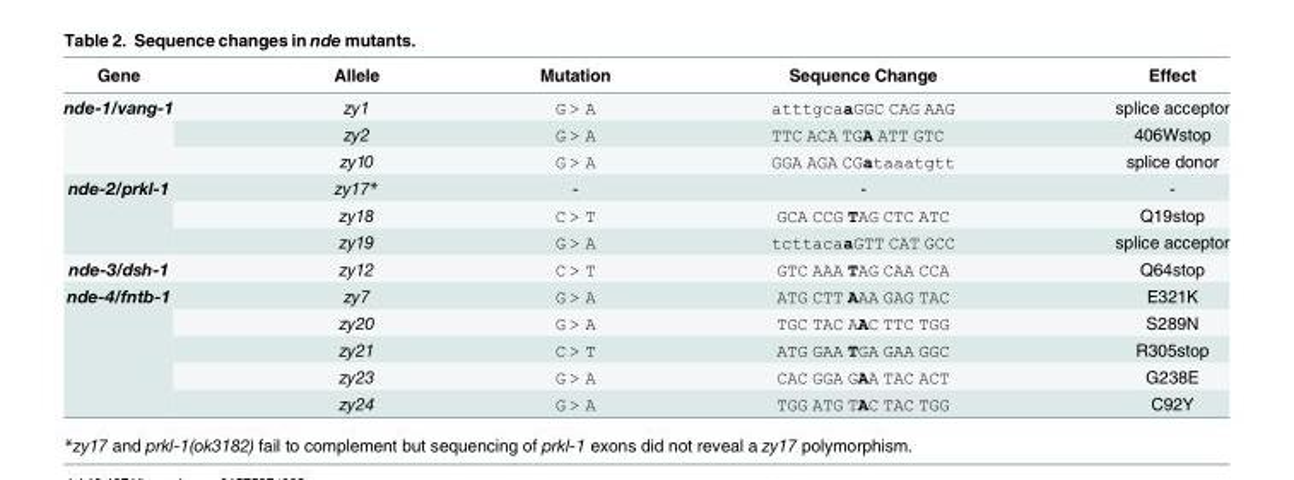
<table><thead><tr><td>Gene</td><td>Allele</td><td>Mutation</td><td>Sequence Change</td><td>Effect</td></tr></thead><tbody><tr><td rowspan="3">nde-1/vang-1</td><td>zy1</td><td>G &gt; A</td><td>atttgcaaGGC CAG AAG</td><td>splice acceptor</td></tr><tr><td>zy2</td><td>G &gt; A</td><td>TTC ACA TGA ATT GTC</td><td>406Wstop</td></tr><tr><td>zy10</td><td>G &gt; A</td><td>GGA AGA CGataaatgtt</td><td>splice donor</td></tr><tr><td rowspan="3">nde-2/prkl-1</td><td>zy17*</td><td>-</td><td>-</td><td>-</td></tr><tr><td>zy18</td><td>C &gt; T</td><td>GCA CCG TAG CTC ATC</td><td>Q19stop</td></tr><tr><td>zy19</td><td>G &gt; A</td><td>tcttacaaGTT CAT GCC</td><td>splice acceptor</td></tr><tr><td>nde-3/dsh-1</td><td>zy12</td><td>C &gt; T</td><td>GTC AAA TAG CAA CCA</td><td>Q64stop</td></tr><tr><td rowspan="5">nde-4/fntb-1</td><td>zy7</td><td>G &gt; A</td><td>ATG CTT AAA GAG TAC</td><td>E321K</td></tr><tr><td>zy20</td><td>G &gt; A</td><td>TGC TAC AAC TTC TGG</td><td>S289N</td></tr><tr><td>zy21</td><td>C &gt; T</td><td>ATG GAA TGA GAA GGC</td><td>R305stop</td></tr><tr><td>zy23</td><td>G &gt; A</td><td>CAC GGA GAA TAC ACT</td><td>G238E</td></tr><tr><td>zy24</td><td>G &gt; A</td><td>TGG ATG TAC TAC TGG</td><td>C92Y</td></tr></tbody></table>